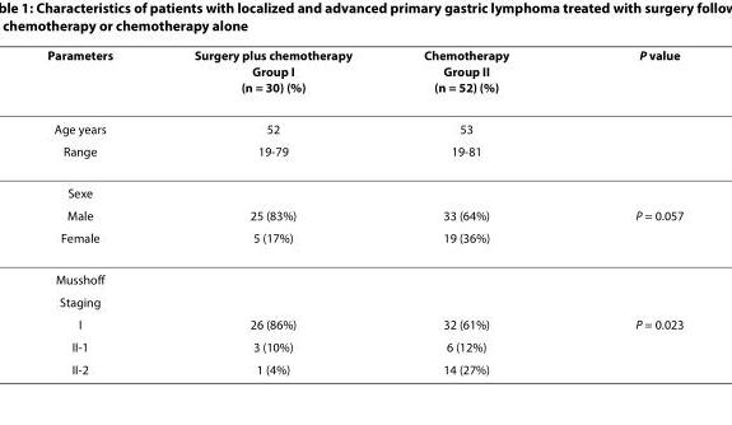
<table><thead><tr><td>Parameters</td><td>Surgery plus chemotherapy Group I (n = 30) (%)</td><td>Chemotherapy Group II (n = 52) (%)</td><td>P value</td></tr></thead><tbody><tr><td>Age years</td><td>52</td><td>53</td><td></td></tr><tr><td>Range</td><td>19-79</td><td>19-81</td><td></td></tr><tr><td colspan="4">Sexe</td></tr><tr><td>Male</td><td>25 (83%)</td><td>33 (64%)</td><td>P = 0.057</td></tr><tr><td>Female</td><td>5 (17%)</td><td>19 (36%)</td><td></td></tr><tr><td colspan="4">Musshoff</td></tr><tr><td colspan="4">Staging</td></tr><tr><td>I</td><td>26 (86%)</td><td>32 (61%)</td><td>P = 0.023</td></tr><tr><td>II-1</td><td>3 (10%)</td><td>6 (12%)</td><td></td></tr><tr><td>II-2</td><td>1 (4%)</td><td>14 (27%)</td><td></td></tr></tbody></table>